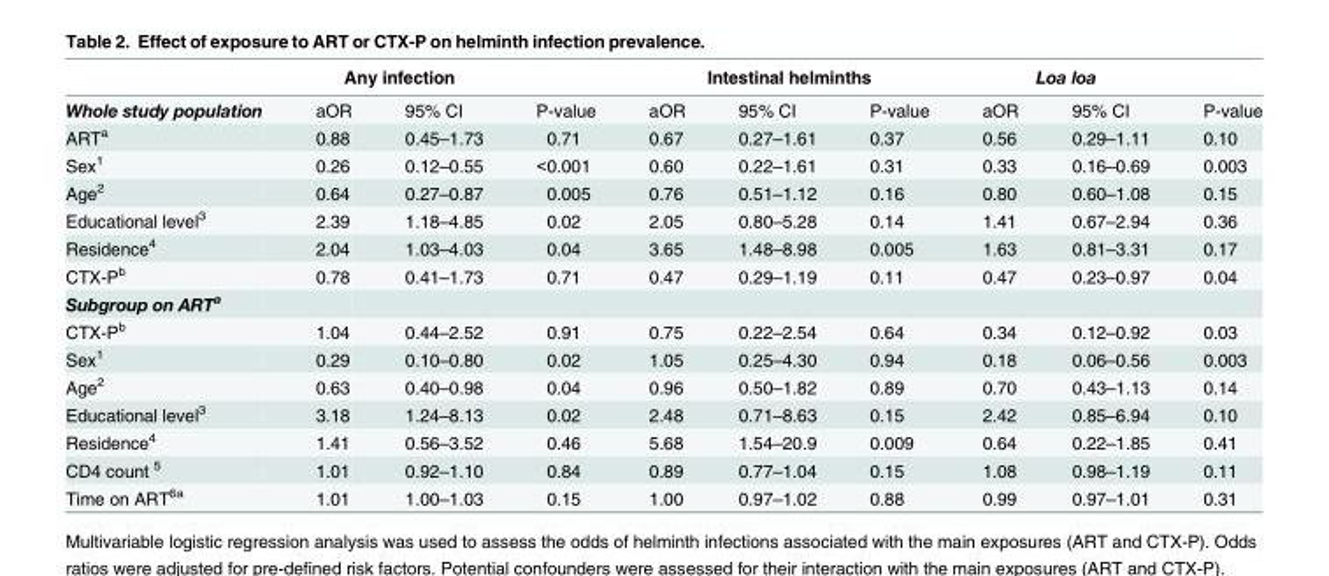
<table><thead><tr><td rowspan="2">Whole study population</td><td colspan="2">Any infection</td><td rowspan="2">P-value</td><td colspan="3">Intestinal helminths</td><td colspan="2">Loa loa</td><td rowspan="2">P-value</td></tr><tr><td>aOR</td><td>95% CI</td><td>aOR</td><td>95% CI</td><td>P-value</td><td>aOR</td><td>95% CI</td></tr></thead><tbody><tr><td>ART<sup>a</sup></td><td>0.88</td><td>0.45–1.73</td><td>0.71</td><td>0.67</td><td>0.27–1.61</td><td>0.37</td><td>0.56</td><td>0.29–1.11</td><td>0.10</td></tr><tr><td>Sex<sup>1</sup></td><td>0.26</td><td>0.12–0.55</td><td>&lt;0.001</td><td>0.60</td><td>0.22–1.61</td><td>0.31</td><td>0.33</td><td>0.16–0.69</td><td>0.003</td></tr><tr><td>Age<sup>2</sup></td><td>0.64</td><td>0.27–0.87</td><td>0.005</td><td>0.76</td><td>0.51–1.12</td><td>0.16</td><td>0.80</td><td>0.60–1.08</td><td>0.15</td></tr><tr><td>Educational level<sup>3</sup></td><td>2.39</td><td>1.18–4.85</td><td>0.02</td><td>2.05</td><td>0.80–5.28</td><td>0.14</td><td>1.41</td><td>0.67–2.94</td><td>0.36</td></tr><tr><td>Residence<sup>4</sup></td><td>2.04</td><td>1.03–4.03</td><td>0.04</td><td>3.65</td><td>1.48–8.98</td><td>0.005</td><td>1.63</td><td>0.81–3.31</td><td>0.17</td></tr><tr><td>CTX-P<sup>b</sup></td><td>0.78</td><td>0.41–1.73</td><td>0.71</td><td>0.47</td><td>0.29–1.19</td><td>0.11</td><td>0.47</td><td>0.23–0.97</td><td>0.04</td></tr><tr><td colspan="10">Subgroup on ART<sup>a</sup></td></tr><tr><td>CTX-P<sup>b</sup></td><td>1.04</td><td>0.44–2.52</td><td>0.91</td><td>0.75</td><td>0.22–2.54</td><td>0.64</td><td>0.34</td><td>0.12–0.92</td><td>0.03</td></tr><tr><td>Sex<sup>1</sup></td><td>0.29</td><td>0.10–0.80</td><td>0.02</td><td>1.05</td><td>0.25–4.30</td><td>0.94</td><td>0.18</td><td>0.06–0.56</td><td>0.003</td></tr><tr><td>Age<sup>2</sup></td><td>0.63</td><td>0.40–0.98</td><td>0.04</td><td>0.96</td><td>0.50–1.82</td><td>0.89</td><td>0.70</td><td>0.43–1.13</td><td>0.14</td></tr><tr><td>Educational level<sup>3</sup></td><td>3.18</td><td>1.24–8.13</td><td>0.02</td><td>2.48</td><td>0.71–8.63</td><td>0.15</td><td>2.42</td><td>0.85–6.94</td><td>0.10</td></tr><tr><td>Residence<sup>4</sup></td><td>1.41</td><td>0.56–3.52</td><td>0.46</td><td>5.68</td><td>1.54–20.9</td><td>0.009</td><td>0.64</td><td>0.22–1.85</td><td>0.41</td></tr><tr><td>CD4 count <sup>5</sup></td><td>1.01</td><td>0.92–1.10</td><td>0.84</td><td>0.89</td><td>0.77–1.04</td><td>0.15</td><td>1.08</td><td>0.98–1.19</td><td>0.11</td></tr><tr><td>Time on ART<sup>6a</sup></td><td>1.01</td><td>1.00–1.03</td><td>0.15</td><td>1.00</td><td>0.97–1.02</td><td>0.88</td><td>0.99</td><td>0.97–1.01</td><td>0.31</td></tr></tbody></table>